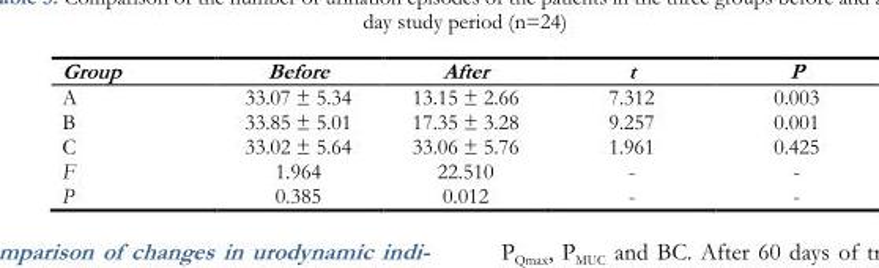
<table><thead><tr><td>Group</td><td>Before</td><td>After</td><td>t</td><td>P</td></tr></thead><tbody><tr><td>A</td><td>33.07 ± 5.34</td><td>13.15 ± 2.66</td><td>7.312</td><td>0.003</td></tr><tr><td>B</td><td>33.85 ± 5.01</td><td>17.35 ± 3.28</td><td>9.257</td><td>0.001</td></tr><tr><td>C</td><td>33.02 ± 5.64</td><td>33.06 ± 5.76</td><td>1.961</td><td>0.425</td></tr><tr><td>F</td><td>1.964</td><td>22.510</td><td>-</td><td>-</td></tr><tr><td>P</td><td>0.385</td><td>0.012</td><td>-</td><td>-</td></tr></tbody></table>